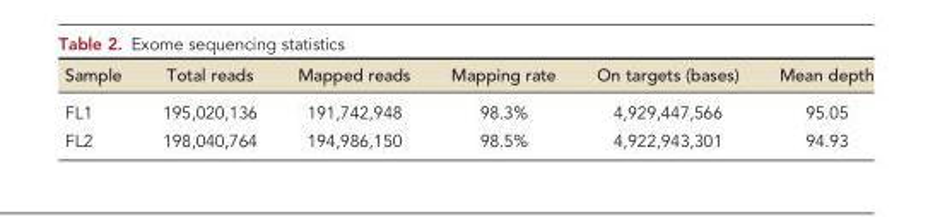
<table><thead><tr><td>Sample</td><td>Total reads</td><td>Mapped reads</td><td>Mapping rate</td><td>On targets (bases)</td><td>Mean depth</td></tr></thead><tbody><tr><td>FL1</td><td>195,020,136</td><td>191,742,948</td><td>98.3%</td><td>4,929,447,566</td><td>95.05</td></tr><tr><td>FL2</td><td>198,040,764</td><td>194,986,150</td><td>98.5%</td><td>4,922,943,301</td><td>94.93</td></tr></tbody></table>